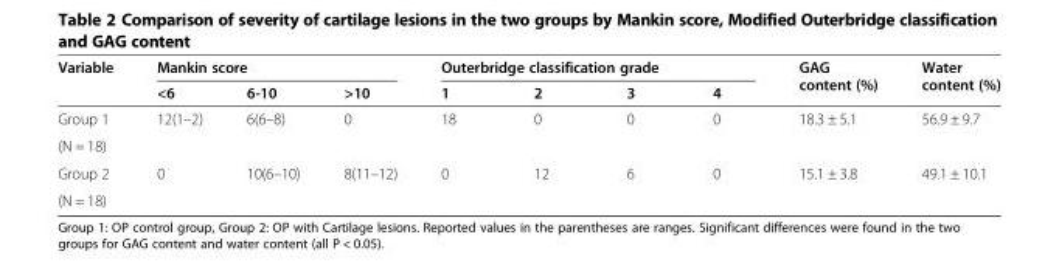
<table><thead><tr><td rowspan="2">Variable</td><td colspan="3">Mankin score</td><td colspan="4">Outerbridge classification grade</td><td rowspan="2">GAG content (%)</td><td rowspan="2">Water content (%)</td></tr><tr><td>&lt;6</td><td>6-10</td><td>&gt;10</td><td>1</td><td>2</td><td>3</td><td>4</td></tr></thead><tbody><tr><td>Group 1</td><td rowspan="2">12(1–2)</td><td rowspan="2">6(6–8)</td><td rowspan="2">0</td><td rowspan="2">18</td><td rowspan="2">0</td><td rowspan="2">0</td><td rowspan="2">0</td><td rowspan="2">18.3 ± 5.1</td><td rowspan="2">56.9 ± 9.7</td></tr><tr><td>(N = 18)</td></tr><tr><td>Group 2</td><td rowspan="2">0</td><td rowspan="2">10(6–10)</td><td rowspan="2">8(11–12)</td><td rowspan="2">0</td><td rowspan="2">12</td><td rowspan="2">6</td><td rowspan="2">0</td><td rowspan="2">15.1 ± 3.8</td><td rowspan="2">49.1 ± 10.1</td></tr><tr><td>(N = 18)</td></tr></tbody></table>